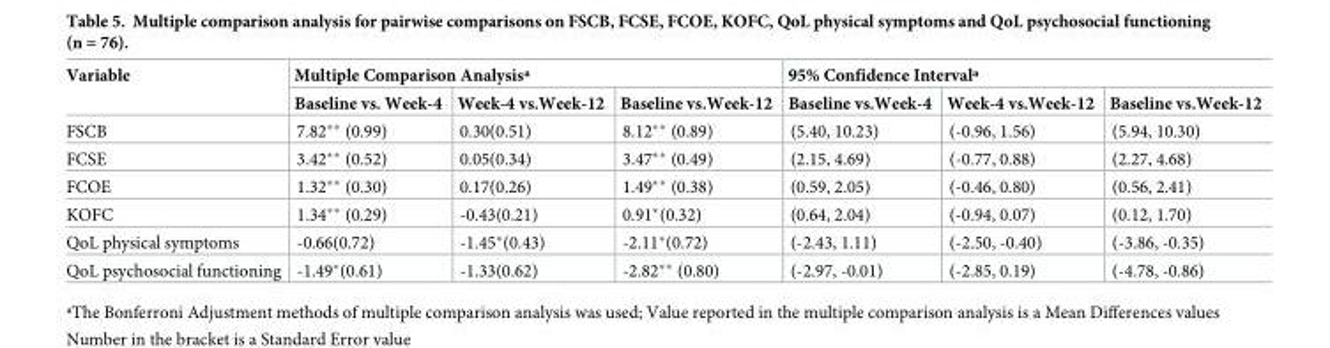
<table><thead><tr><td rowspan="2">Variable</td><td colspan="3">Multiple Comparison Analysisª</td><td colspan="3">95% Confidence Intervalª</td></tr><tr><td>Baseline vs. Week-4</td><td>Week-4 vs.Week-12</td><td>Baseline vs.Week-12</td><td>Baseline vs.Week-4</td><td>Week-4 vs.Week-12</td><td>Baseline vs.Week-12</td></tr></thead><tbody><tr><td>FSCB</td><td>7.82** (0.99)</td><td>0.30(0.51)</td><td>8.12** (0.89)</td><td>(5.40, 10.23)</td><td>(-0.96, 1.56)</td><td>(5.94, 10.30)</td></tr><tr><td>FCSE</td><td>3.42** (0.52)</td><td>0.05(0.34)</td><td>3.47** (0.49)</td><td>(2.15, 4.69)</td><td>(-0.77, 0.88)</td><td>(2.27, 4.68)</td></tr><tr><td>FCOE</td><td>1.32** (0.30)</td><td>0.17(0.26)</td><td>1.49** (0.38)</td><td>(0.59, 2.05)</td><td>(-0.46, 0.80)</td><td>(0.56, 2.41)</td></tr><tr><td>KOFC</td><td>1.34** (0.29)</td><td>-0.43(0.21)</td><td>0.91*(0.32)</td><td>(0.64, 2.04)</td><td>(-0.94, 0.07)</td><td>(0.12, 1.70)</td></tr><tr><td>QoL physical symptoms</td><td>-0.66(0.72)</td><td>-1.45*(0.43)</td><td>-2.11*(0.72)</td><td>(-2.43, 1.11)</td><td>(-2.50, -0.40)</td><td>(-3.86, -0.35)</td></tr><tr><td>QoL psychosocial functioning</td><td>-1.49*(0.61)</td><td>-1.33(0.62)</td><td>-2.82** (0.80)</td><td>(-2.97, -0.01)</td><td>(-2.85, 0.19)</td><td>(-4.78, -0.86)</td></tr></tbody></table>